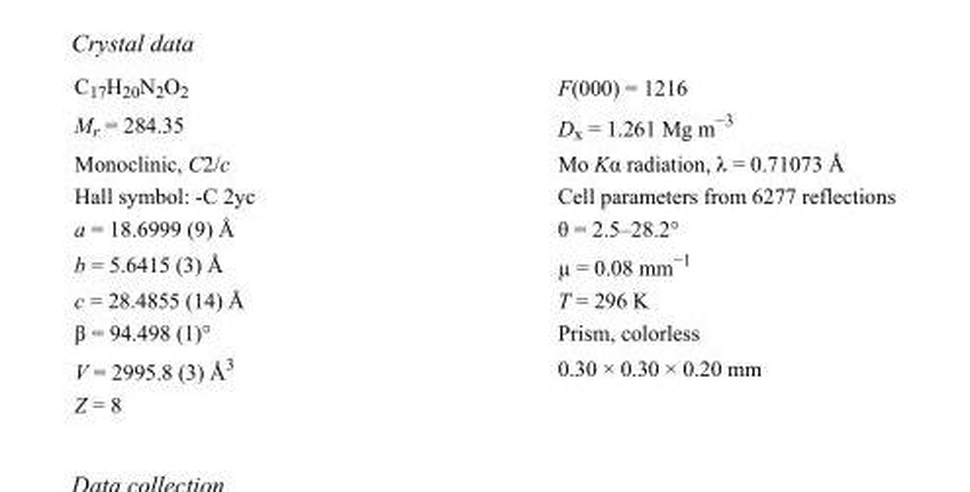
<table><tbody><tr><td>C<sub>17</sub>H<sub>20</sub>N<sub>2</sub>O<sub>2</sub></td><td>F(000) = 1216</td></tr><tr><td>M<sub>r</sub> = 284.35</td><td>D<sub>x</sub> = 1.261 Mg m<sup>−3</sup></td></tr><tr><td>Monoclinic, C2/c</td><td>Mo Kα radiation, λ = 0.71073 Å</td></tr><tr><td>Hall symbol: -C 2yc</td><td>Cell parameters from 6277 reflections</td></tr><tr><td>a = 18.6999 (9) Å</td><td>θ = 2.5–28.2°</td></tr><tr><td>b = 5.6415 (3) Å</td><td>µ = 0.08 mm<sup>−1</sup></td></tr><tr><td>c = 28.4855 (14) Å</td><td>T = 296 K</td></tr><tr><td>β = 94.498 (1)°</td><td>Prism, colorless</td></tr><tr><td>V = 2995.8 (3) Å<sup>3</sup></td><td>0.30 × 0.30 × 0.20 mm</td></tr><tr><td>Z = 8</td><td></td></tr></tbody></table>